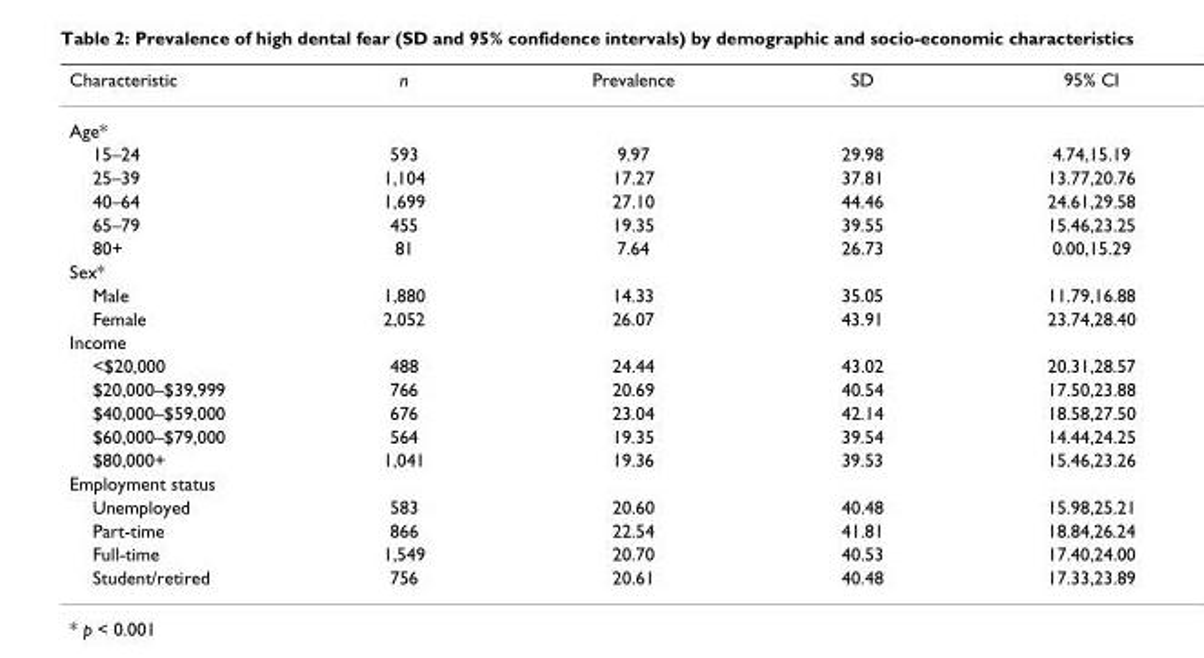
<table><thead><tr><td>Characteristic</td><td>n</td><td>Prevalence</td><td>SD</td><td>95% CI</td></tr></thead><tbody><tr><td colspan="5">Age*</td></tr><tr><td>15–24</td><td>593</td><td>9.97</td><td>29.98</td><td>4.74,15.19</td></tr><tr><td>25–39</td><td>1,104</td><td>17.27</td><td>37.81</td><td>13.77,20.76</td></tr><tr><td>40–64</td><td>1,699</td><td>27.10</td><td>44.46</td><td>24.61,29.58</td></tr><tr><td>65–79</td><td>455</td><td>19.35</td><td>39.55</td><td>15.46,23.25</td></tr><tr><td>80+</td><td>81</td><td>7.64</td><td>26.73</td><td>0.00,15.29</td></tr><tr><td colspan="5">Sex*</td></tr><tr><td>Male</td><td>1,880</td><td>14.33</td><td>35.05</td><td>11.79,16.88</td></tr><tr><td>Female</td><td>2,052</td><td>26.07</td><td>43.91</td><td>23.74,28.40</td></tr><tr><td colspan="5">Income</td></tr><tr><td>&lt;$20,000</td><td>488</td><td>24.44</td><td>43.02</td><td>20.31,28.57</td></tr><tr><td>$20,000–$39,999</td><td>766</td><td>20.69</td><td>40.54</td><td>17.50,23.88</td></tr><tr><td>$40,000–$59,000</td><td>676</td><td>23.04</td><td>42.14</td><td>18.58,27.50</td></tr><tr><td>$60,000–$79,000</td><td>564</td><td>19.35</td><td>39.54</td><td>14.44,24.25</td></tr><tr><td>$80,000+</td><td>1,041</td><td>19.36</td><td>39.53</td><td>15.46,23.26</td></tr><tr><td colspan="5">Employment status</td></tr><tr><td>Unemployed</td><td>583</td><td>20.60</td><td>40.48</td><td>15.98,25.21</td></tr><tr><td>Part-time</td><td>866</td><td>22.54</td><td>41.81</td><td>18.84,26.24</td></tr><tr><td>Full-time</td><td>1,549</td><td>20.70</td><td>40.53</td><td>17.40,24.00</td></tr><tr><td>Student/retired</td><td>756</td><td>20.61</td><td>40.48</td><td>17.33,23.89</td></tr></tbody></table>